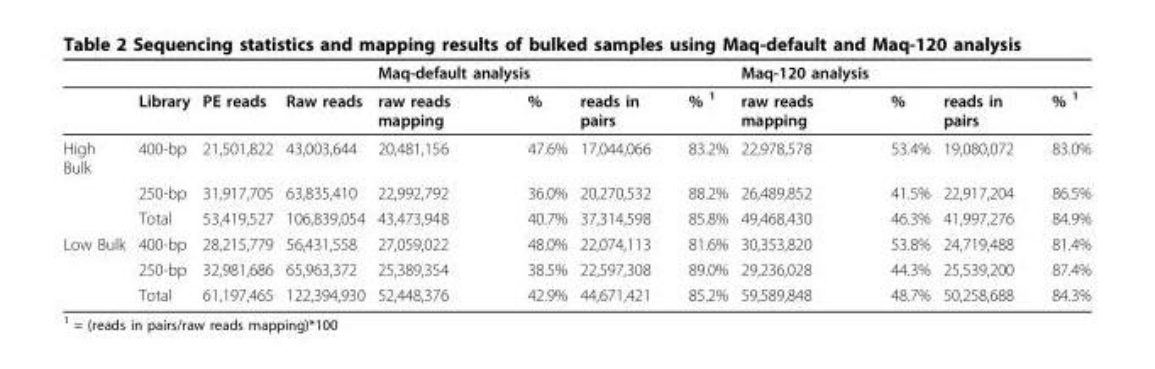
<table><thead><tr><td rowspan="2"></td><td rowspan="2">Library</td><td rowspan="2">PE reads</td><td rowspan="2">Raw reads</td><td colspan="4">Maq-default analysis</td><td colspan="4">Maq-120 analysis</td></tr><tr><td>raw reads mapping</td><td>%</td><td>reads in pairs</td><td>% <sup>1</sup></td><td>raw reads mapping</td><td>%</td><td>reads in pairs</td><td>% <sup>1</sup></td></tr></thead><tbody><tr><td rowspan="3">High Bulk</td><td>400-bp</td><td>21,501,822</td><td>43,003,644</td><td>20,481,156</td><td>47.6%</td><td>17,044,066</td><td>83.2%</td><td>22,978,578</td><td>53.4%</td><td>19,080,072</td><td>83.0%</td></tr><tr><td>250-bp</td><td>31,917,705</td><td>63,835,410</td><td>22,992,792</td><td>36.0%</td><td>20,270,532</td><td>88.2%</td><td>26,489,852</td><td>41.5%</td><td>22,917,204</td><td>86.5%</td></tr><tr><td>Total</td><td>53,419,527</td><td>106,839,054</td><td>43,473,948</td><td>40.7%</td><td>37,314,598</td><td>85.8%</td><td>49,468,430</td><td>46.3%</td><td>41,997,276</td><td>84.9%</td></tr><tr><td rowspan="3">Low Bulk</td><td>400-bp</td><td>28,215,779</td><td>56,431,558</td><td>27,059,022</td><td>48.0%</td><td>22,074,113</td><td>81.6%</td><td>30,353,820</td><td>53.8%</td><td>24,719,488</td><td>81.4%</td></tr><tr><td>250-bp</td><td>32,981,686</td><td>65,963,372</td><td>25,389,354</td><td>38.5%</td><td>22,597,308</td><td>89.0%</td><td>29,236,028</td><td>44.3%</td><td>25,539,200</td><td>87.4%</td></tr><tr><td>Total</td><td>61,197,465</td><td>122,394,930</td><td>52,448,376</td><td>42.9%</td><td>44,671,421</td><td>85.2%</td><td>59,589,848</td><td>48.7%</td><td>50,258,688</td><td>84.3%</td></tr></tbody></table>